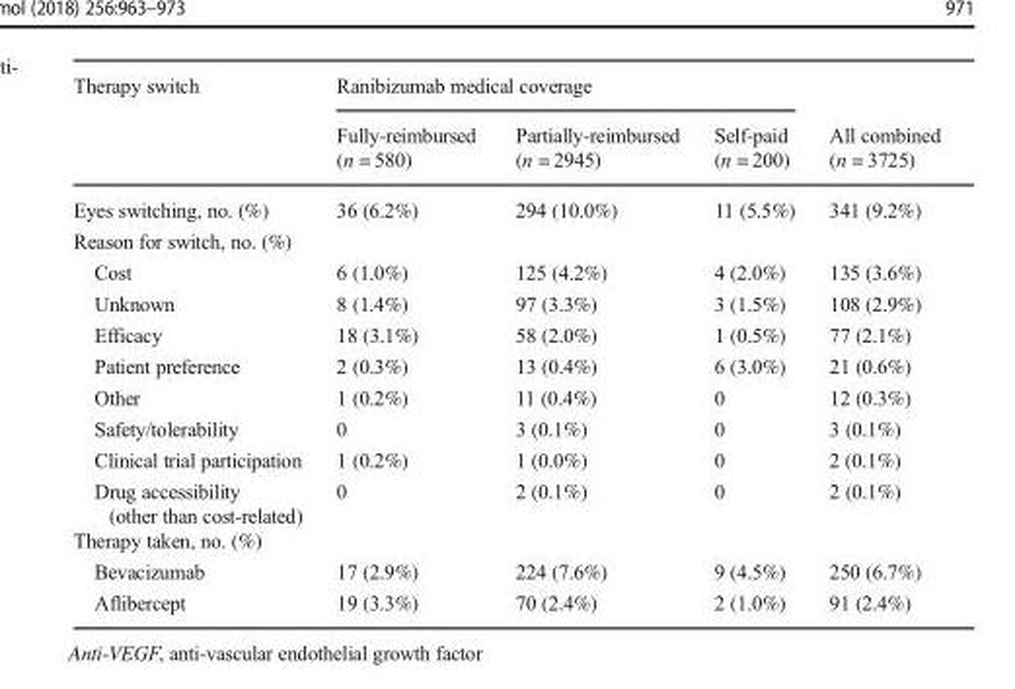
<table><thead><tr><td rowspan="2">Therapy switch</td><td colspan="3">Ranibizumab medical coverage</td><td rowspan="2">All combined (n = 3725)</td></tr><tr><td>Fully-reimbursed (n = 580)</td><td>Partially-reimbursed (n = 2945)</td><td>Self-paid (n = 200)</td></tr></thead><tbody><tr><td>Eyes switching, no. (%)</td><td>36 (6.2%)</td><td>294 (10.0%)</td><td>11 (5.5%)</td><td>341 (9.2%)</td></tr><tr><td colspan="5">Reason for switch, no. (%)</td></tr><tr><td>Cost</td><td>6 (1.0%)</td><td>125 (4.2%)</td><td>4 (2.0%)</td><td>135 (3.6%)</td></tr><tr><td>Unknown</td><td>8 (1.4%)</td><td>97 (3.3%)</td><td>3 (1.5%)</td><td>108 (2.9%)</td></tr><tr><td>Efficacy</td><td>18 (3.1%)</td><td>58 (2.0%)</td><td>1 (0.5%)</td><td>77 (2.1%)</td></tr><tr><td>Patient preference</td><td>2 (0.3%)</td><td>13 (0.4%)</td><td>6 (3.0%)</td><td>21 (0.6%)</td></tr><tr><td>Other</td><td>1 (0.2%)</td><td>11 (0.4%)</td><td>0</td><td>12 (0.3%)</td></tr><tr><td>Safety/tolerability</td><td>0</td><td>3 (0.1%)</td><td>0</td><td>3 (0.1%)</td></tr><tr><td>Clinical trial participation</td><td>1 (0.2%)</td><td>1 (0.0%)</td><td>0</td><td>2 (0.1%)</td></tr><tr><td>Drug accessibility (other than cost-related)</td><td>0</td><td>2 (0.1%)</td><td>0</td><td>2 (0.1%)</td></tr><tr><td colspan="5">Therapy taken, no. (%)</td></tr><tr><td>Bevacizumab</td><td>17 (2.9%)</td><td>224 (7.6%)</td><td>9 (4.5%)</td><td>250 (6.7%)</td></tr><tr><td>Aflibercept</td><td>19 (3.3%)</td><td>70 (2.4%)</td><td>2 (1.0%)</td><td>91 (2.4%)</td></tr></tbody></table>